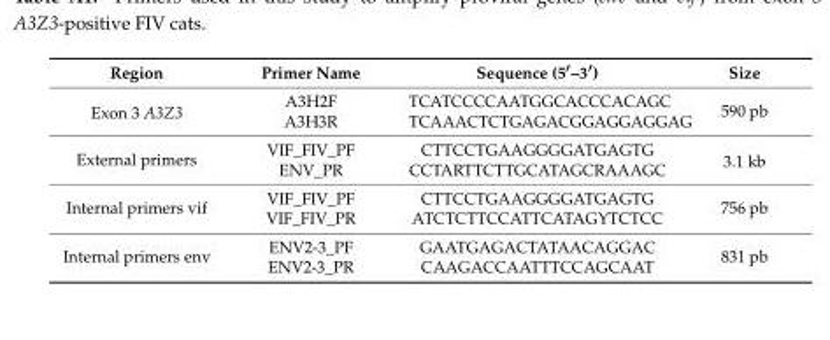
<table><thead><tr><td>Region</td><td>Primer Name</td><td>Sequence (5′–3′)</td><td>Size</td></tr></thead><tbody><tr><td rowspan="2">Exon 3 A3Z3</td><td>A3H2F</td><td>TCATCCCCAATGGCACCCACAGC</td><td rowspan="2">590 pb</td></tr><tr><td>A3H3R</td><td>TCAAACTCTGAGACGGAGGAGGAG</td></tr><tr><td rowspan="2">External primers</td><td>VIF_FIV_PF</td><td>CTTCCTGAAGGGGATGAGTG</td><td rowspan="2">3.1 kb</td></tr><tr><td>ENV_PR</td><td>CCTARTTCTTGCATAGCRAAAGC</td></tr><tr><td rowspan="2">Internal primers vif</td><td>VIF_FIV_PF</td><td>CTTCCTGAAGGGGATGAGTG</td><td rowspan="2">756 pb</td></tr><tr><td>VIF_FIV_PR</td><td>ATCTCTTCCATTCATAGYTCTCC</td></tr><tr><td rowspan="2">Internal primers env</td><td>ENV2-3_PF</td><td>GAATGAGACTATAACAGGAC</td><td rowspan="2">831 pb</td></tr><tr><td>ENV2-3_PR</td><td>CAAGACCAATTTCCAGCAAT</td></tr></tbody></table>